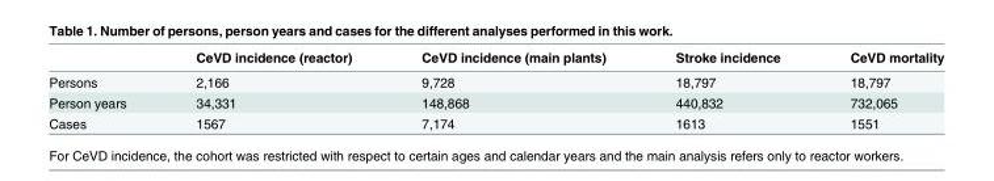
<table><thead><tr><td></td><td>CeVD incidence (reactor)</td><td>CeVD incidence (main plants)</td><td>Stroke incidence</td><td>CeVD mortality</td></tr></thead><tbody><tr><td>Persons</td><td>2,166</td><td>9,728</td><td>18,797</td><td>18,797</td></tr><tr><td>Person years</td><td>34,331</td><td>148,868</td><td>440,832</td><td>732,065</td></tr><tr><td>Cases</td><td>1567</td><td>7,174</td><td>1613</td><td>1551</td></tr></tbody></table>